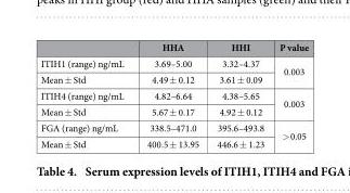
<table><thead><tr><td></td><td>HHA</td><td>HHI</td><td>P value</td></tr></thead><tbody><tr><td>ITIH1 (range) ng/mL</td><td>3.69–5.00</td><td>3.32–4.37</td><td rowspan="2">0.003</td></tr><tr><td>Mean ± Std</td><td>4.49 ± 0.12</td><td>3.61 ± 0.09</td></tr><tr><td>ITIH4 (range) ng/mL</td><td>4.82–6.64</td><td>4.38–5.65</td><td rowspan="2">0.003</td></tr><tr><td>Mean ± Std</td><td>5.67 ± 0.17</td><td>4.92 ± 0.12</td></tr><tr><td>FGA (range) ng/mL</td><td>338.5–471.0</td><td>395.6–493.8</td><td rowspan="2">&gt; 0.05</td></tr><tr><td>Mean ± Std</td><td>400.5 ± 13.95</td><td>446.6 ± 1.23</td></tr></tbody></table>